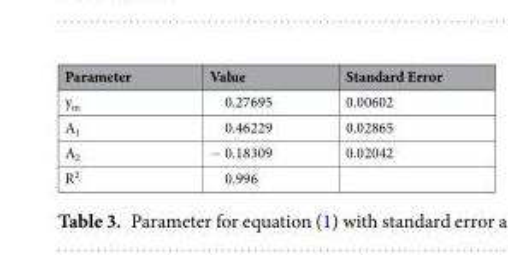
<table><thead><tr><td>Parameter</td><td>Value</td><td>Standard Error</td></tr></thead><tbody><tr><td>y<sub>m</sub></td><td>0.27695</td><td>0.00602</td></tr><tr><td>A<sub>1</sub></td><td>0.46229</td><td>0.02865</td></tr><tr><td>A<sub>2</sub></td><td>− 0.18309</td><td>0.02042</td></tr><tr><td>R²</td><td>0.996</td><td></td></tr></tbody></table>